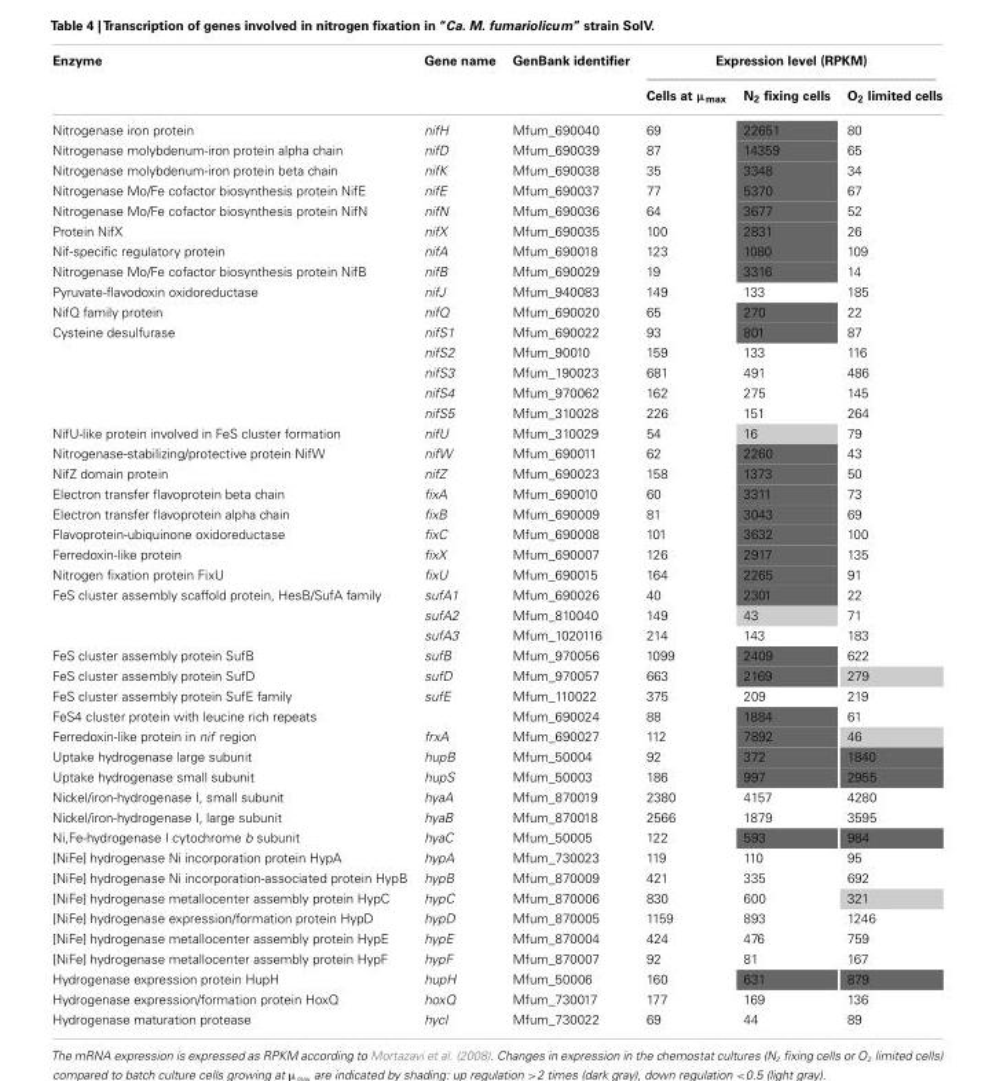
<table><thead><tr><td rowspan="2">Enzyme</td><td rowspan="2">Gene name</td><td rowspan="2">GenBank identifier</td><td colspan="3">Expression level (RPKM)</td></tr><tr><td>Cells at µ<sub>max</sub></td><td>N<sub>2</sub> fixing cells</td><td>O<sub>2</sub> limited cells</td></tr></thead><tbody><tr><td>Nitrogenase iron protein</td><td>nifH</td><td>Mfum_690040</td><td>69</td><td>22651</td><td>80</td></tr><tr><td>Nitrogenase molybdenum-iron protein alpha chain</td><td>nifD</td><td>Mfum_690039</td><td>87</td><td>14359</td><td>65</td></tr><tr><td>Nitrogenase molybdenum-iron protein beta chain</td><td>nifK</td><td>Mfum_690038</td><td>35</td><td>3348</td><td>34</td></tr><tr><td>Nitrogenase Mo/Fe cofactor biosynthesis protein NifE</td><td>nifE</td><td>Mfum_690037</td><td>77</td><td>5370</td><td>67</td></tr><tr><td>Nitrogenase Mo/Fe cofactor biosynthesis protein NifN</td><td>nifN</td><td>Mfum_690036</td><td>64</td><td>3677</td><td>52</td></tr><tr><td>Protein NifX</td><td>nifX</td><td>Mfum_690035</td><td>100</td><td>2831</td><td>26</td></tr><tr><td>Nif-specific regulatory protein</td><td>nifA</td><td>Mfum_690018</td><td>123</td><td>1080</td><td>109</td></tr><tr><td>Nitrogenase Mo/Fe cofactor biosynthesis protein NifB</td><td>nifB</td><td>Mfum_690029</td><td>19</td><td>3316</td><td>14</td></tr><tr><td>Pyruvate-flavodoxin oxidoreductase</td><td>nifJ</td><td>Mfum_940083</td><td>149</td><td>133</td><td>185</td></tr><tr><td>NifQ family protein</td><td>nifQ</td><td>Mfum_690020</td><td>65</td><td>270</td><td>22</td></tr><tr><td rowspan="5">Cysteine desulfurase</td><td>nifS1</td><td>Mfum_690022</td><td>93</td><td>801</td><td>87</td></tr><tr><td>nifS2</td><td>Mfum_90010</td><td>159</td><td>133</td><td>116</td></tr><tr><td>nifS3</td><td>Mfum_190023</td><td>681</td><td>491</td><td>486</td></tr><tr><td>nifS4</td><td>Mfum_970062</td><td>162</td><td>275</td><td>145</td></tr><tr><td>nifS5</td><td>Mfum_310028</td><td>226</td><td>151</td><td>264</td></tr><tr><td>NifU-like protein involved in FeS cluster formation</td><td>nifU</td><td>Mfum_310029</td><td>54</td><td>16</td><td>79</td></tr><tr><td>Nitrogenase-stabilizing/protective protein NifW</td><td>nifW</td><td>Mfum_690011</td><td>62</td><td>2260</td><td>43</td></tr><tr><td>NifZ domain protein</td><td>nifZ</td><td>Mfum_690023</td><td>158</td><td>1373</td><td>50</td></tr><tr><td>Electron transfer flavoprotein beta chain</td><td>fixA</td><td>Mfum_690010</td><td>60</td><td>3311</td><td>73</td></tr><tr><td>Electron transfer flavoprotein alpha chain</td><td>fixB</td><td>Mfum_690009</td><td>81</td><td>3043</td><td>69</td></tr><tr><td>Flavoprotein-ubiquinone oxidoreductase</td><td>fixC</td><td>Mfum_690008</td><td>101</td><td>3632</td><td>100</td></tr><tr><td>Ferredoxin-like protein</td><td>fixX</td><td>Mfum_690007</td><td>126</td><td>2917</td><td>135</td></tr><tr><td>Nitrogen fixation protein FixU</td><td>fixU</td><td>Mfum_690015</td><td>164</td><td>2265</td><td>91</td></tr><tr><td rowspan="3">FeS cluster assembly scaffold protein, HesB/SufA family</td><td>sufA1</td><td>Mfum_690026</td><td>40</td><td>2301</td><td>22</td></tr><tr><td>sufA2</td><td>Mfum_810040</td><td>149</td><td>43</td><td>71</td></tr><tr><td>sufA3</td><td>Mfum_1020116</td><td>214</td><td>143</td><td>183</td></tr><tr><td>FeS cluster assembly protein SufB</td><td>sufB</td><td>Mfum_970056</td><td>1099</td><td>2409</td><td>622</td></tr><tr><td>FeS cluster assembly protein SufD</td><td>sufD</td><td>Mfum_970057</td><td>663</td><td>2169</td><td>279</td></tr><tr><td>FeS cluster assembly protein SufE family</td><td>sufE</td><td>Mfum_110022</td><td>375</td><td>209</td><td>219</td></tr><tr><td>FeS4 cluster protein with leucine rich repeats</td><td></td><td>Mfum_690024</td><td>88</td><td>1884</td><td>61</td></tr><tr><td>Ferredoxin-like protein in nif region</td><td>frxA</td><td>Mfum_690027</td><td>112</td><td>7892</td><td>46</td></tr><tr><td>Uptake hydrogenase large subunit</td><td>hupB</td><td>Mfum_50004</td><td>92</td><td>372</td><td>1840</td></tr><tr><td>Uptake hydrogenase small subunit</td><td>hupS</td><td>Mfum_50003</td><td>186</td><td>997</td><td>2955</td></tr><tr><td>Nickel/iron-hydrogenase I, small subunit</td><td>hyaA</td><td>Mfum_870019</td><td>2380</td><td>4157</td><td>4280</td></tr><tr><td>Nickel/iron-hydrogenase I, large subunit</td><td>hyaB</td><td>Mfum_870018</td><td>2566</td><td>1879</td><td>3595</td></tr><tr><td>Ni,Fe-hydrogenase I cytochrome b subunit</td><td>hyaC</td><td>Mfum_50005</td><td>122</td><td>593</td><td>984</td></tr><tr><td>[NiFe] hydrogenase Ni incorporation protein HypA</td><td>hypA</td><td>Mfum_730023</td><td>119</td><td>110</td><td>95</td></tr><tr><td>[NiFe] hydrogenase Ni incorporation-associated protein HypB</td><td>hypB</td><td>Mfum_870009</td><td>421</td><td>335</td><td>692</td></tr><tr><td>[NiFe] hydrogenase metallocenter assembly protein HypC</td><td>hypC</td><td>Mfum_870006</td><td>830</td><td>600</td><td>321</td></tr><tr><td>[NiFe] hydrogenase expression/formation protein HypD</td><td>hypD</td><td>Mfum_870005</td><td>1159</td><td>893</td><td>1246</td></tr><tr><td>[NiFe] hydrogenase metallocenter assembly protein HypE</td><td>hypE</td><td>Mfum_870004</td><td>424</td><td>476</td><td>759</td></tr><tr><td>[NiFe] hydrogenase metallocenter assembly protein HypF</td><td>hypF</td><td>Mfum_870007</td><td>92</td><td>81</td><td>167</td></tr><tr><td>Hydrogenase expression protein HupH</td><td>hupH</td><td>Mfum_50006</td><td>160</td><td>631</td><td>879</td></tr><tr><td>Hydrogenase expression/formation protein HoxQ</td><td>hoxQ</td><td>Mfum_730017</td><td>177</td><td>169</td><td>136</td></tr><tr><td>Hydrogenase maturation protease</td><td>hycI</td><td>Mfum_730022</td><td>69</td><td>44</td><td>89</td></tr></tbody></table>